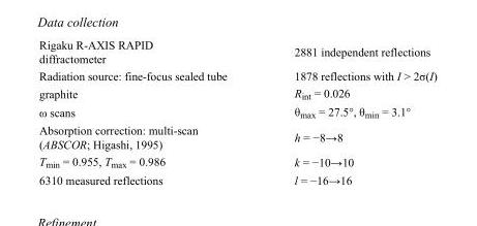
<table><tbody><tr><td>Rigaku R-AXIS RAPID diffractometer</td><td>2881 independent reflections</td></tr><tr><td>Radiation source: fine-focus sealed tube</td><td>1878 reflections with I &gt; 2σ(I)</td></tr><tr><td>graphite</td><td>R<sub>int</sub> = 0.026</td></tr><tr><td>ω scans</td><td>θ<sub>max</sub> = 27.5°, θ<sub>min</sub> = 3.1°</td></tr><tr><td>Absorption correction: multi-scan (ABSCOR; Higashi, 1995)</td><td>h = −8→8</td></tr><tr><td>T<sub>min</sub> = 0.955, T<sub>max</sub> = 0.986</td><td>k = −10→10</td></tr><tr><td>6310 measured reflections</td><td>l = −16→16</td></tr></tbody></table>